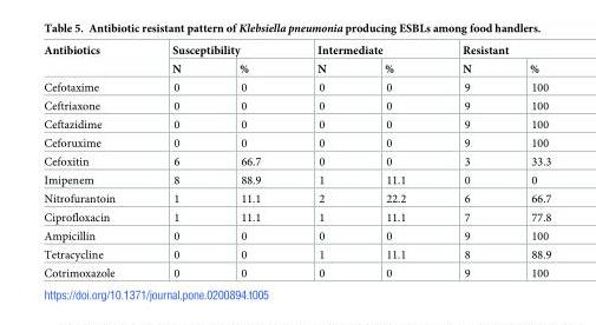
<table><thead><tr><td rowspan="2">Antibiotics</td><td colspan="2">Susceptibility</td><td colspan="2">Intermediate</td><td colspan="2">Resistant</td></tr><tr><td>N</td><td>%</td><td>N</td><td>%</td><td>N</td><td>%</td></tr></thead><tbody><tr><td>Cefotaxime</td><td>0</td><td>0</td><td>0</td><td>0</td><td>9</td><td>100</td></tr><tr><td>Ceftriaxone</td><td>0</td><td>0</td><td>0</td><td>0</td><td>9</td><td>100</td></tr><tr><td>Ceftazidime</td><td>0</td><td>0</td><td>0</td><td>0</td><td>9</td><td>100</td></tr><tr><td>Ceforuxime</td><td>0</td><td>0</td><td>0</td><td>0</td><td>9</td><td>100</td></tr><tr><td>Cefoxitin</td><td>6</td><td>66.7</td><td>0</td><td>0</td><td>3</td><td>33.3</td></tr><tr><td>Imipenem</td><td>8</td><td>88.9</td><td>1</td><td>11.1</td><td>0</td><td>0</td></tr><tr><td>Nitrofurantoin</td><td>1</td><td>11.1</td><td>2</td><td>22.2</td><td>6</td><td>66.7</td></tr><tr><td>Ciprofloxacin</td><td>1</td><td>11.1</td><td>1</td><td>11.1</td><td>7</td><td>77.8</td></tr><tr><td>Ampicillin</td><td>0</td><td>0</td><td>0</td><td>0</td><td>9</td><td>100</td></tr><tr><td>Tetracycline</td><td>0</td><td>0</td><td>1</td><td>11.1</td><td>8</td><td>88.9</td></tr><tr><td>Cotrimoxazole</td><td>0</td><td>0</td><td>0</td><td>0</td><td>9</td><td>100</td></tr></tbody></table>